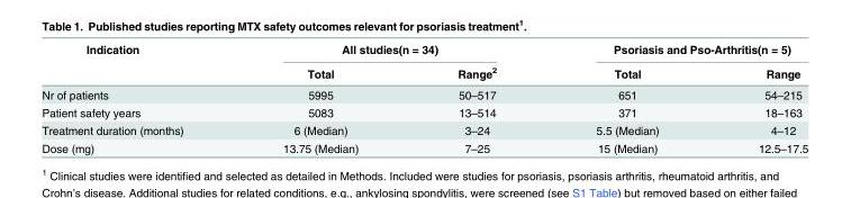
<table><thead><tr><td rowspan="2">Indication</td><td colspan="2">All studies(n = 34)</td><td colspan="2">Psoriasis and Pso-Arthritis(n = 5)</td></tr><tr><td>Total</td><td>Range<sup>2</sup></td><td>Total</td><td>Range</td></tr></thead><tbody><tr><td>Nr of patients</td><td>5995</td><td>50–517</td><td>651</td><td>54–215</td></tr><tr><td>Patient safety years</td><td>5083</td><td>13–514</td><td>371</td><td>18–163</td></tr><tr><td>Treatment duration (months)</td><td>6 (Median)</td><td>3–24</td><td>5.5 (Median)</td><td>4–12</td></tr><tr><td>Dose (mg)</td><td>13.75 (Median)</td><td>7–25</td><td>15 (Median)</td><td>12.5–17.5</td></tr></tbody></table>